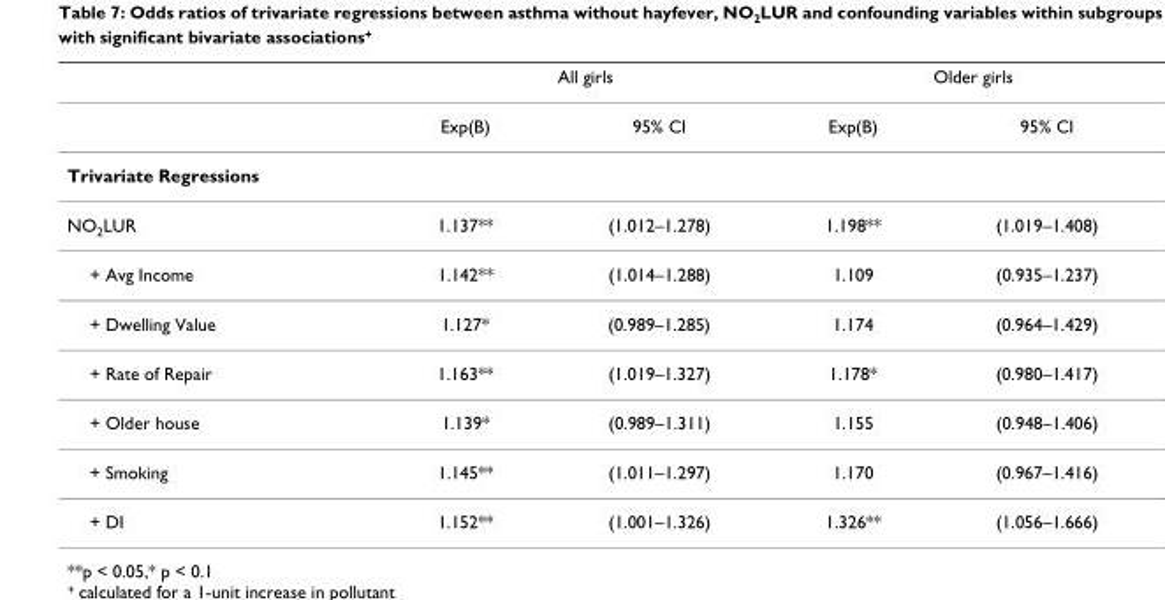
<table><thead><tr><td rowspan="2"></td><td colspan="2">All girls</td><td colspan="2">Older girls</td></tr><tr><td>Exp(B)</td><td>95% CI</td><td>Exp(B)</td><td>95% CI</td></tr></thead><tbody><tr><td colspan="5">Trivariate Regressions</td></tr><tr><td>NO<sub>2</sub>LUR</td><td>1.137**</td><td>(1.012–1.278)</td><td>1.198**</td><td>(1.019–1.408)</td></tr><tr><td>+ Avg Income</td><td>1.142**</td><td>(1.014–1.288)</td><td>1.109</td><td>(0.935–1.237)</td></tr><tr><td>+ Dwelling Value</td><td>1.127*</td><td>(0.989–1.285)</td><td>1.174</td><td>(0.964–1.429)</td></tr><tr><td>+ Rate of Repair</td><td>1.163**</td><td>(1.019–1.327)</td><td>1.178*</td><td>(0.980–1.417)</td></tr><tr><td>+ Older house</td><td>1.139*</td><td>(0.989–1.311)</td><td>1.155</td><td>(0.948–1.406)</td></tr><tr><td>+ Smoking</td><td>1.145**</td><td>(1.011–1.297)</td><td>1.170</td><td>(0.967–1.416)</td></tr><tr><td>+ DI</td><td>1.152**</td><td>(1.001–1.326)</td><td>1.326**</td><td>(1.056–1.666)</td></tr></tbody></table>